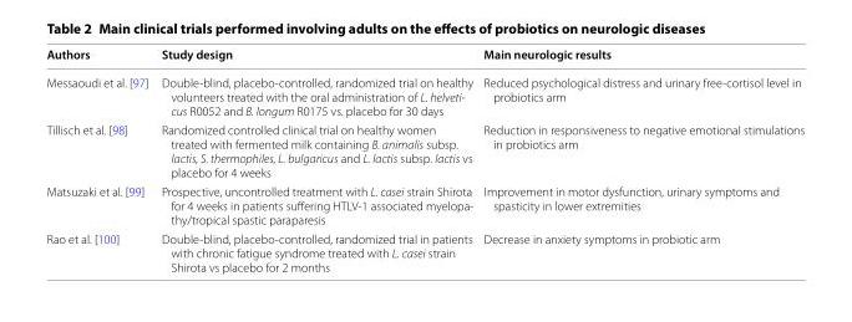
<table><thead><tr><td>Authors</td><td>Study design</td><td>Main neurologic results</td></tr></thead><tbody><tr><td>Messaoudi et al. [97]</td><td>Double-blind, placebo-controlled, randomized trial on healthy volunteers treated with the oral administration of L. helveti- cus R0052 and B. longum R0175 vs. placebo for 30 days</td><td>Reduced psychological distress and urinary free-cortisol level in probiotics arm</td></tr><tr><td>Tillisch et al. [98]</td><td>Randomized controlled clinical trial on healthy women treated with fermented milk containing B. animalis subsp. lactis, S. thermophiles, L. bulgaricus and L. lactis subsp. lactis vs placebo for 4 weeks</td><td>Reduction in responsiveness to negative emotional stimulations in probiotics arm</td></tr><tr><td>Matsuzaki et al. [99]</td><td>Prospective, uncontrolled treatment with L. casei strain Shirota for 4 weeks in patients suffering HTLV-1 associated myelopa- thy/tropical spastic paraparesis</td><td>Improvement in motor dysfunction, urinary symptoms and spasticity in lower extremities</td></tr><tr><td>Rao et al. [100]</td><td>Double-blind, placebo-controlled, randomized trial in patients with chronic fatigue syndrome treated with L. casei strain Shirota vs placebo for 2 months</td><td>Decrease in anxiety symptoms in probiotic arm</td></tr></tbody></table>